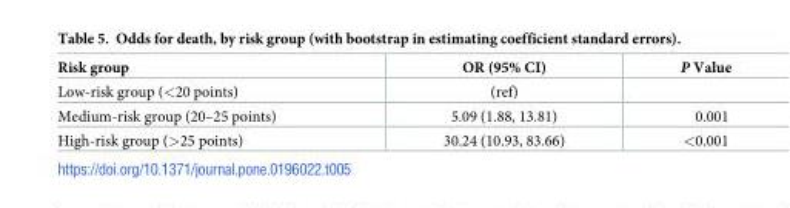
<table><thead><tr><td>Risk group</td><td>OR (95% CI)</td><td>P Value</td></tr></thead><tbody><tr><td>Low-risk group (&lt;20 points)</td><td>(ref)</td><td></td></tr><tr><td>Medium-risk group (20–25 points)</td><td>5.09 (1.88, 13.81)</td><td>0.001</td></tr><tr><td>High-risk group (&gt;25 points)</td><td>30.24 (10.93, 83.66)</td><td>&lt;0.001</td></tr></tbody></table>